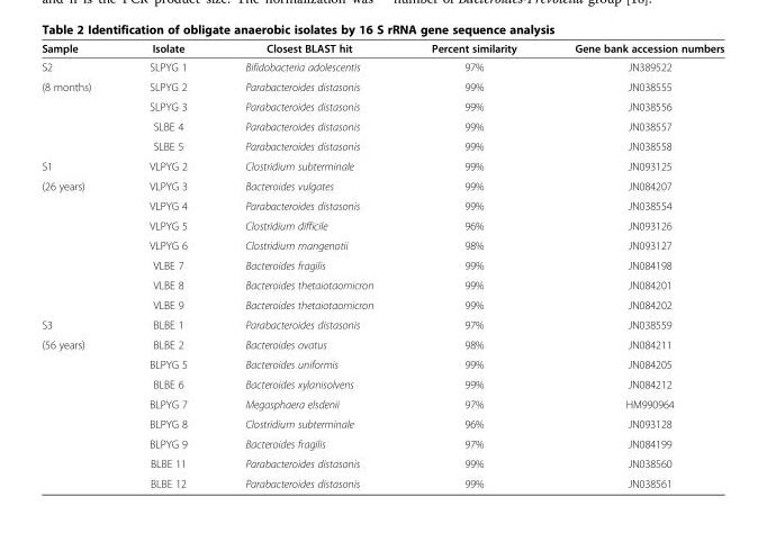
<table><thead><tr><td>Sample</td><td>Isolate</td><td>Closest BLAST hit</td><td>Percent similarity</td><td>Gene bank accession numbers</td></tr></thead><tbody><tr><td>S2</td><td>SLPYG 1</td><td>Bifidobacteria adolescentis</td><td>97%</td><td>JN389522</td></tr><tr><td rowspan="4">(8 months)</td><td>SLPYG 2</td><td>Parabacteroides distasonis</td><td>99%</td><td>JN038555</td></tr><tr><td>SLPYG 3</td><td>Parabacteroides distasonis</td><td>99%</td><td>JN038556</td></tr><tr><td>SLBE 4</td><td>Parabacteroides distasonis</td><td>99%</td><td>JN038557</td></tr><tr><td>SLBE 5</td><td>Parabacteroides distasonis</td><td>99%</td><td>JN038558</td></tr><tr><td>S1</td><td>VLPYG 2</td><td>Clostridium subterminale</td><td>99%</td><td>JN093125</td></tr><tr><td rowspan="7">(26 years)</td><td>VLPYG 3</td><td>Bacteroides vulgates</td><td>99%</td><td>JN084207</td></tr><tr><td>VLPYG 4</td><td>Parabacteroides distasonis</td><td>99%</td><td>JN038554</td></tr><tr><td>VLPYG 5</td><td>Clostridium difficile</td><td>96%</td><td>JN093126</td></tr><tr><td>VLPYG 6</td><td>Clostridium mangenotii</td><td>98%</td><td>JN093127</td></tr><tr><td>VLBE 7</td><td>Bacteroides fragilis</td><td>99%</td><td>JN084198</td></tr><tr><td>VLBE 8</td><td>Bacteroides thetaiotaomicron</td><td>99%</td><td>JN084201</td></tr><tr><td>VLBE 9</td><td>Bacteroides thetaiotaomicron</td><td>99%</td><td>JN084202</td></tr><tr><td>S3</td><td>BLBE 1</td><td>Parabacteroides distasonis</td><td>97%</td><td>JN038559</td></tr><tr><td rowspan="8">(56 years)</td><td>BLBE 2</td><td>Bacteroides ovatus</td><td>98%</td><td>JN084211</td></tr><tr><td>BLPYG 5</td><td>Bacteroides uniformis</td><td>99%</td><td>JN084205</td></tr><tr><td>BLBE 6</td><td>Bacteroides xylanisolvens</td><td>99%</td><td>JN084212</td></tr><tr><td>BLPYG 7</td><td>Megasphaera elsdenii</td><td>97%</td><td>HM990964</td></tr><tr><td>BLPYG 8</td><td>Clostridium subterminale</td><td>96%</td><td>JN093128</td></tr><tr><td>BLPYG 9</td><td>Bacteroides fragilis</td><td>97%</td><td>JN084199</td></tr><tr><td>BLBE 11</td><td>Parabacteroides distasonis</td><td>99%</td><td>JN038560</td></tr><tr><td>BLBE 12</td><td>Parabacteroides distasonis</td><td>99%</td><td>JN038561</td></tr></tbody></table>